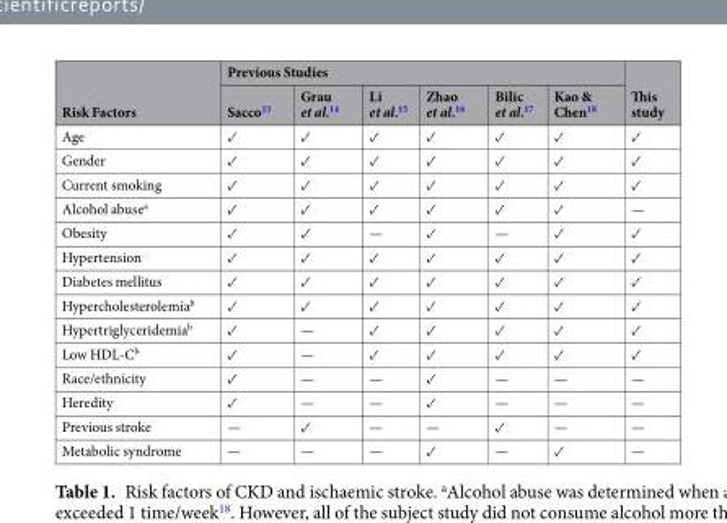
<table><thead><tr><td rowspan="2">Risk Factors</td><td colspan="6">Previous Studies</td><td rowspan="2">This study</td></tr><tr><td>Sacco<sup>13</sup></td><td>Grau et al.<sup>14</sup></td><td>Li et al.<sup>15</sup></td><td>Zhao et al.<sup>16</sup></td><td>Bilic et al.<sup>17</sup></td><td>Kao &amp; Chen<sup>18</sup></td></tr></thead><tbody><tr><td>Age</td><td>✓</td><td>✓</td><td>✓</td><td>✓</td><td>✓</td><td>✓</td><td>✓</td></tr><tr><td>Gender</td><td>✓</td><td>✓</td><td>✓</td><td>✓</td><td>✓</td><td>✓</td><td>✓</td></tr><tr><td>Current smoking</td><td>✓</td><td>✓</td><td>✓</td><td>✓</td><td>✓</td><td>✓</td><td>✓</td></tr><tr><td>Alcohol abuse<sup>a</sup></td><td>✓</td><td>✓</td><td>✓</td><td>✓</td><td>✓</td><td>✓</td><td>—</td></tr><tr><td>Obesity</td><td>✓</td><td>✓</td><td>—</td><td>✓</td><td>—</td><td>✓</td><td>✓</td></tr><tr><td>Hypertension</td><td>✓</td><td>✓</td><td>✓</td><td>✓</td><td>✓</td><td>✓</td><td>✓</td></tr><tr><td>Diabetes mellitus</td><td>✓</td><td>✓</td><td>✓</td><td>✓</td><td>✓</td><td>✓</td><td>✓</td></tr><tr><td>Hypercholesterolemia<sup>b</sup></td><td>✓</td><td>✓</td><td>✓</td><td>✓</td><td>✓</td><td>✓</td><td>✓</td></tr><tr><td>Hypertriglyceridemia<sup>b</sup></td><td>✓</td><td>—</td><td>✓</td><td>✓</td><td>✓</td><td>✓</td><td>✓</td></tr><tr><td>Low HDL-C<sup>b</sup></td><td>✓</td><td>—</td><td>✓</td><td>✓</td><td>✓</td><td>✓</td><td>✓</td></tr><tr><td>Race/ethnicity</td><td>✓</td><td>—</td><td>—</td><td>✓</td><td>—</td><td>—</td><td>—</td></tr><tr><td>Heredity</td><td>✓</td><td>—</td><td>—</td><td>✓</td><td>—</td><td>—</td><td>—</td></tr><tr><td>Previous stroke</td><td>—</td><td>✓</td><td>—</td><td>—</td><td>✓</td><td>—</td><td>—</td></tr><tr><td>Metabolic syndrome</td><td>—</td><td>—</td><td>—</td><td>✓</td><td>—</td><td>✓</td><td>—</td></tr></tbody></table>